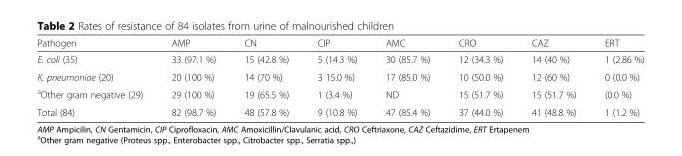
<table><thead><tr><td>Pathogen</td><td>AMP</td><td>CN</td><td>CIP</td><td>AMC</td><td>CRO</td><td>CAZ</td><td>ERT</td></tr></thead><tbody><tr><td>E. coli (35)</td><td>33 (97.1 %)</td><td>15 (42.8 %)</td><td>5 (14.3 %)</td><td>30 (85.7 %)</td><td>12 (34.3 %)</td><td>14 (40 %)</td><td>1 (2.86 %)</td></tr><tr><td>K. pneumoniae (20)</td><td>20 (100 %)</td><td>14 (70 %)</td><td>3 15.0 %)</td><td>17 (85.0 %)</td><td>10 (50.0 %)</td><td>12 (60 %)</td><td>0 (0.0 %)</td></tr><tr><td><sup>a</sup>Other gram negative (29)</td><td>29 (100 %)</td><td>19 (65.5 %)</td><td>1 (3.4 %)</td><td>ND</td><td>15 (51.7 %)</td><td>15 (51.7 %)</td><td>(0.0 %)</td></tr><tr><td>Total (84)</td><td>82 (98.7 %)</td><td>48 (57.8 %)</td><td>9 (10.8 %)</td><td>47 (85.4 %)</td><td>37 (44.0 %)</td><td>41 (48.8 %)</td><td>1 (1.2 %)</td></tr></tbody></table>